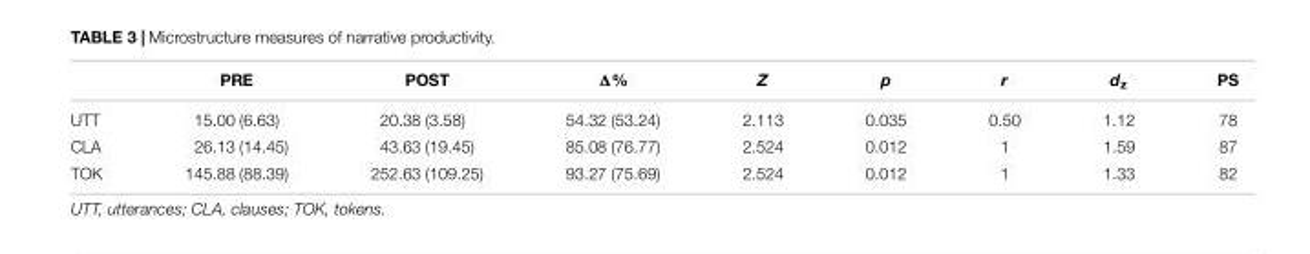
<table><thead><tr><td></td><td>PRE</td><td>POST</td><td>Δ%</td><td>Z</td><td>p</td><td>r</td><td>d<sub>z</sub></td><td>PS</td></tr></thead><tbody><tr><td>UTT</td><td>15.00 (6.63)</td><td>20.38 (3.58)</td><td>54.32 (53.24)</td><td>2.113</td><td>0.035</td><td>0.50</td><td>1.12</td><td>78</td></tr><tr><td>CLA</td><td>26.13 (14.45)</td><td>43.63 (19.45)</td><td>85.08 (76.77)</td><td>2.524</td><td>0.012</td><td>1</td><td>1.59</td><td>87</td></tr><tr><td>TOK</td><td>145.88 (88.39)</td><td>252.63 (109.25)</td><td>93.27 (75.69)</td><td>2.524</td><td>0.012</td><td>1</td><td>1.33</td><td>82</td></tr></tbody></table>